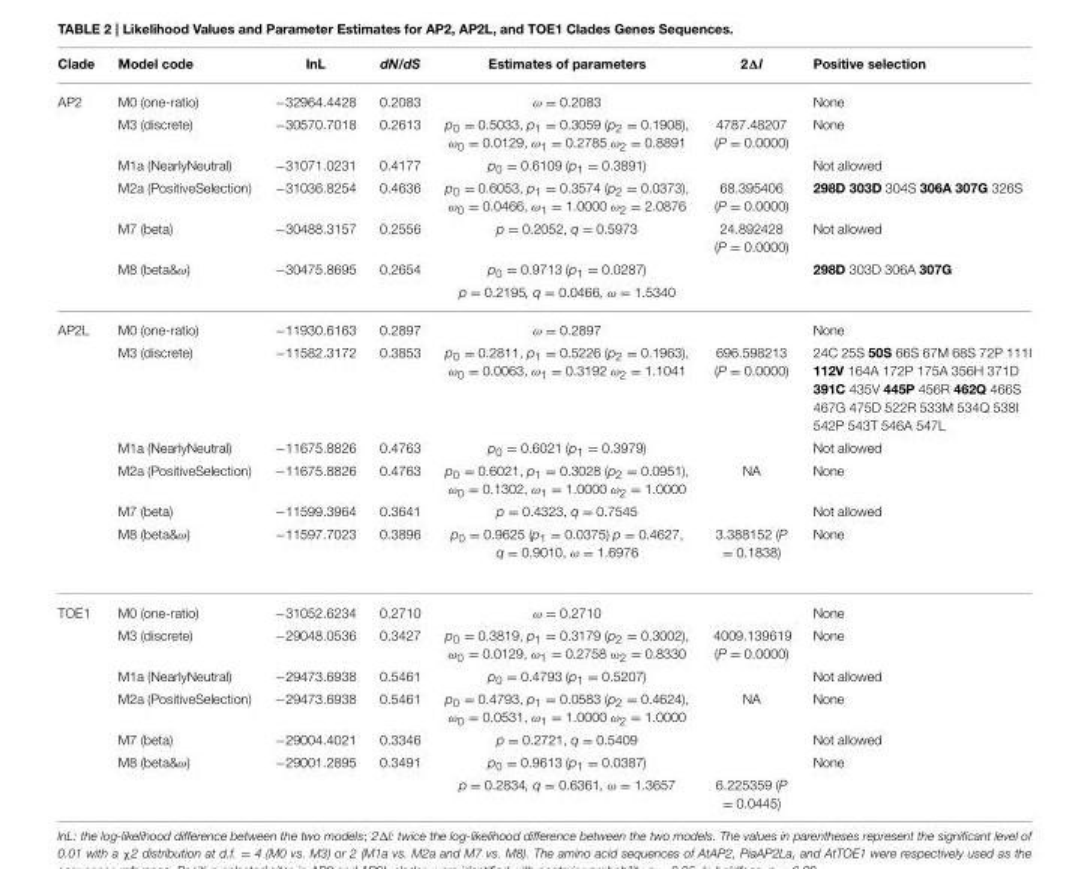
<table><thead><tr><td>Clade</td><td>Model code</td><td>InL</td><td>dN/dS</td><td>Estimates of parameters</td><td>2Δl</td><td>Positive selection</td></tr></thead><tbody><tr><td rowspan="7">AP2</td><td>M0 (one-ratio)</td><td>−32964.4428</td><td>0.2083</td><td>ω = 0.2083</td><td></td><td>None</td></tr><tr><td>M3 (discrete)</td><td>−30570.7018</td><td>0.2613</td><td>p0 = 0.5033, p1 = 0.3059 (p2 = 0.1908), ω0 = 0.0129, ω1 = 0.2785 ω2 = 0.8891</td><td>4787.48207 (P = 0.0000)</td><td>None</td></tr><tr><td>M1a (NearlyNeutral)</td><td>−31071.0231</td><td>0.4177</td><td>p0 = 0.6109 (p1 = 0.3891)</td><td></td><td>Not allowed</td></tr><tr><td>M2a (PositiveSelection)</td><td>−31036.8254</td><td>0.4636</td><td>p0 = 0.6053, p1 = 0.3574 (p2 = 0.0373), ω0 = 0.0466, ω1 = 1.0000 ω2 = 2.0876</td><td>68.395406 (P = 0.0000)</td><td>298D 303D 304S 306A 307G 326S</td></tr><tr><td>M7 (beta)</td><td>−30488.3157</td><td>0.2556</td><td>p = 0.2052, q = 0.5973</td><td>24.892428 (P = 0.0000)</td><td>Not allowed</td></tr><tr><td>M8 (beta&amp;ω)</td><td>−30475.8695</td><td>0.2654</td><td>p0 = 0.9713 (p1 = 0.0287)</td><td></td><td>298D 303D 306A 307G</td></tr><tr><td></td><td></td><td></td><td>p = 0.2195, q = 0.0466, ω = 1.5340</td><td></td><td></td></tr><tr><td rowspan="6">AP2L</td><td>M0 (one-ratio)</td><td>−11930.6163</td><td>0.2897</td><td>ω = 0.2897</td><td></td><td>None</td></tr><tr><td>M3 (discrete)</td><td>−11582.3172</td><td>0.3853</td><td>p0 = 0.2811, p1 = 0.5226 (p2 = 0.1963), ω0 = 0.0063, ω1 = 0.3192 ω2 = 1.1041</td><td>696.598213 (P = 0.0000)</td><td>24C 25S 50S 66S 67M 68S 72P 111I 112V 164A 172P 175A 356H 371D 391C 435V 445P 456R 462Q 466S 467G 475D 522R 533M 534Q 538I 542P 543T 546A 547L</td></tr><tr><td>M1a (NearlyNeutral)</td><td>−11675.8826</td><td>0.4763</td><td>p0 = 0.6021 (p1 = 0.3979)</td><td></td><td>Not allowed</td></tr><tr><td>M2a (PositiveSelection)</td><td>−11675.8826</td><td>0.4763</td><td>p0 = 0.6021, p1 = 0.3028 (p2 = 0.0951), ω0 = 0.1302, ω1 = 1.0000 ω2 = 1.0000</td><td>NA</td><td>None</td></tr><tr><td>M7 (beta)</td><td>−11599.3964</td><td>0.3641</td><td>p = 0.4323, q = 0.7545</td><td></td><td>Not allowed</td></tr><tr><td>M8 (beta&amp;ω)</td><td>−11597.7023</td><td>0.3896</td><td>p0 = 0.9625 (p1 = 0.0375) p = 0.4627, q = 0.9010, ω = 1.6976</td><td>3.388152 (P = 0.1838)</td><td>None</td></tr><tr><td rowspan="7">TOE1</td><td>M0 (one-ratio)</td><td>−31052.6234</td><td>0.2710</td><td>ω = 0.2710</td><td></td><td>None</td></tr><tr><td>M3 (discrete)</td><td>−29048.0536</td><td>0.3427</td><td>p0 = 0.3819, p1 = 0.3179 (p2 = 0.3002), ω0 = 0.0129, ω1 = 0.2758 ω2 = 0.8330</td><td>4009.139619 (P = 0.0000)</td><td>None</td></tr><tr><td>M1a (NearlyNeutral)</td><td>−29473.6938</td><td>0.5461</td><td>p0 = 0.4793 (p1 = 0.5207)</td><td></td><td>Not allowed</td></tr><tr><td>M2a (PositiveSelection)</td><td>−29473.6938</td><td>0.5461</td><td>p0 = 0.4793, p1 = 0.0583 (p2 = 0.4624), ω0 = 0.0531, ω1 = 1.0000 ω2 = 1.0000</td><td>NA</td><td>None</td></tr><tr><td>M7 (beta)</td><td>−29004.4021</td><td>0.3346</td><td>p = 0.2721, q = 0.5409</td><td></td><td>Not allowed</td></tr><tr><td>M8 (beta&amp;ω)</td><td>−29001.2895</td><td>0.3491</td><td>p0 = 0.9613 (p1 = 0.0387)</td><td></td><td>None</td></tr><tr><td></td><td></td><td></td><td>p = 0.2834, q = 0.6361, ω = 1.3657</td><td>6.225359 (P = 0.0445)</td><td></td></tr></tbody></table>